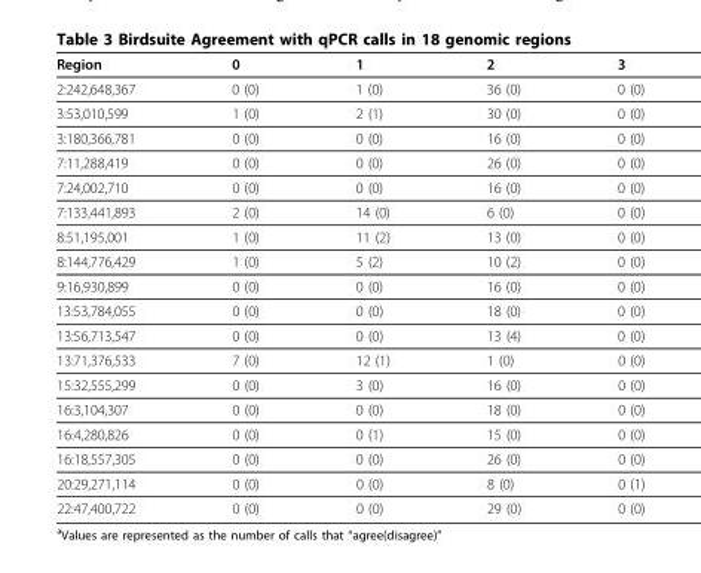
<table><thead><tr><td>Region</td><td>0</td><td>1</td><td>2</td><td>3</td></tr></thead><tbody><tr><td>2:242,648,367</td><td>0 (0)</td><td>1 (0)</td><td>36 (0)</td><td>0 (0)</td></tr><tr><td>3:53,010,599</td><td>1 (0)</td><td>2 (1)</td><td>30 (0)</td><td>0 (0)</td></tr><tr><td>3:180,366,781</td><td>0 (0)</td><td>0 (0)</td><td>16 (0)</td><td>0 (0)</td></tr><tr><td>7:11,288,419</td><td>0 (0)</td><td>0 (0)</td><td>26 (0)</td><td>0 (0)</td></tr><tr><td>7:24,002,710</td><td>0 (0)</td><td>0 (0)</td><td>16 (0)</td><td>0 (0)</td></tr><tr><td>7:133,441,893</td><td>2 (0)</td><td>14 (0)</td><td>6 (0)</td><td>0 (0)</td></tr><tr><td>8:51,195,001</td><td>1 (0)</td><td>11 (2)</td><td>13 (0)</td><td>0 (0)</td></tr><tr><td>8:144,776,429</td><td>1 (0)</td><td>5 (2)</td><td>10 (2)</td><td>0 (0)</td></tr><tr><td>9:16,930,899</td><td>0 (0)</td><td>0 (0)</td><td>16 (0)</td><td>0 (0)</td></tr><tr><td>13:53,784,055</td><td>0 (0)</td><td>0 (0)</td><td>18 (0)</td><td>0 (0)</td></tr><tr><td>13:56,713,547</td><td>0 (0)</td><td>0 (0)</td><td>13 (4)</td><td>0 (0)</td></tr><tr><td>13:71,376,533</td><td>7 (0)</td><td>12 (1)</td><td>1 (0)</td><td>0 (0)</td></tr><tr><td>15:32,555,299</td><td>0 (0)</td><td>3 (0)</td><td>16 (0)</td><td>0 (0)</td></tr><tr><td>16:3,104,307</td><td>0 (0)</td><td>0 (0)</td><td>18 (0)</td><td>0 (0)</td></tr><tr><td>16:4,280,826</td><td>0 (0)</td><td>0 (1)</td><td>15 (0)</td><td>0 (0)</td></tr><tr><td>16:18,557,305</td><td>0 (0)</td><td>0 (0)</td><td>26 (0)</td><td>0 (0)</td></tr><tr><td>20:29,271,114</td><td>0 (0)</td><td>0 (0)</td><td>8 (0)</td><td>0 (1)</td></tr><tr><td>22:47,400,722</td><td>0 (0)</td><td>0 (0)</td><td>29 (0)</td><td>0 (0)</td></tr></tbody></table>